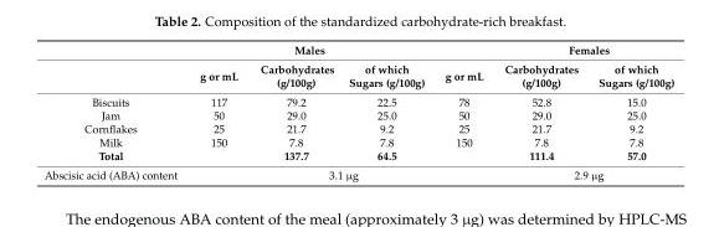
<table><thead><tr><td rowspan="2"></td><td colspan="3">Males</td><td rowspan="2">g or mL</td><td colspan="2">Females</td></tr><tr><td>g or mL</td><td>Carbohydrates (g/100g)</td><td>of which Sugars (g/100g)</td><td>Carbohydrates (g/100g)</td><td>of which Sugars (g/100g)</td></tr></thead><tbody><tr><td>Biscuits</td><td>117</td><td>79.2</td><td>22.5</td><td>78</td><td>52.8</td><td>15.0</td></tr><tr><td>Jam</td><td>50</td><td>29.0</td><td>25.0</td><td>50</td><td>29.0</td><td>25.0</td></tr><tr><td>Cornflakes</td><td>25</td><td>21.7</td><td>9.2</td><td>25</td><td>21.7</td><td>9.2</td></tr><tr><td>Milk</td><td>150</td><td>7.8</td><td>7.8</td><td>150</td><td>7.8</td><td>7.8</td></tr><tr><td>Total</td><td></td><td>137.7</td><td>64.5</td><td></td><td>111.4</td><td>57.0</td></tr><tr><td>Abscisic acid (ABA) content</td><td></td><td colspan="2">3.1 µg</td><td></td><td colspan="2">2.9 µg</td></tr></tbody></table>